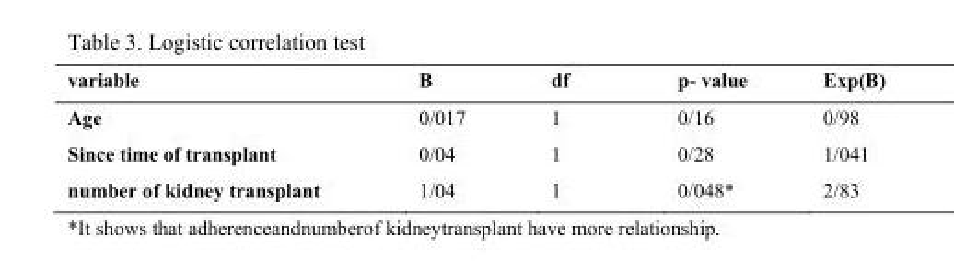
<table><thead><tr><td>variable</td><td>B</td><td>df</td><td>p- value</td><td>Exp(B)</td></tr></thead><tbody><tr><td>Age</td><td>0/017</td><td>1</td><td>0/16</td><td>0/98</td></tr><tr><td>Since time of transplant</td><td>0/04</td><td>1</td><td>0/28</td><td>1/041</td></tr><tr><td>number of kidney transplant</td><td>1/04</td><td>1</td><td>0/048*</td><td>2/83</td></tr></tbody></table>